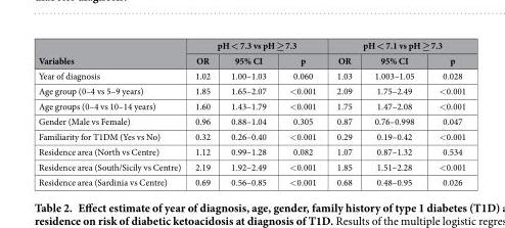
<table><thead><tr><td rowspan="2">Variables</td><td colspan="3">pH &lt; 7.3 vs pH ≥ 7.3</td><td colspan="3">pH &lt; 7.1 vs pH ≥ 7.3</td></tr><tr><td>OR</td><td>95% CI</td><td>p</td><td>OR</td><td>95% CI</td><td>p</td></tr></thead><tbody><tr><td>Year of diagnosis</td><td>1.02</td><td>1.00–1.03</td><td>0.060</td><td>1.03</td><td>1.003–1.05</td><td>0.028</td></tr><tr><td>Age group (0–4 vs 5–9 years)</td><td>1.85</td><td>1.65–2.07</td><td>&lt; 0.001</td><td>2.09</td><td>1.75–2.49</td><td>&lt; 0.001</td></tr><tr><td>Age groups (0–4 vs 10–14 years)</td><td>1.60</td><td>1.43–1.79</td><td>&lt; 0.001</td><td>1.75</td><td>1.47–2.08</td><td>&lt; 0.001</td></tr><tr><td>Gender (Male vs Female)</td><td>0.96</td><td>0.88–1.04</td><td>0.305</td><td>0.87</td><td>0.76–0.998</td><td>0.047</td></tr><tr><td>Familiarity for T1DM (Yes vs No)</td><td>0.32</td><td>0.26–0.40</td><td>&lt; 0.001</td><td>0.29</td><td>0.19–0.42</td><td>&lt; 0.001</td></tr><tr><td>Residence area (North vs Centre)</td><td>1.12</td><td>0.99–1.28</td><td>0.082</td><td>1.07</td><td>0.87–1.32</td><td>0.534</td></tr><tr><td>Residence area (South/Sicily vs Centre)</td><td>2.19</td><td>1.92–2.49</td><td>&lt; 0.001</td><td>1.85</td><td>1.51–2.28</td><td>&lt; 0.001</td></tr><tr><td>Residence area (Sardinia vs Centre)</td><td>0.69</td><td>0.56–0.85</td><td>&lt; 0.001</td><td>0.68</td><td>0.48–0.95</td><td>0.026</td></tr></tbody></table>